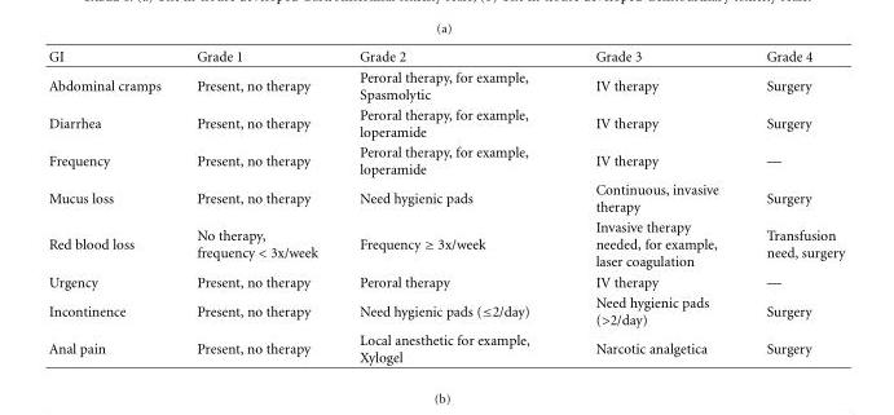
<table><thead><tr><td>GI</td><td>Grade 1</td><td>Grade 2</td><td>Grade 3</td><td>Grade 4</td></tr></thead><tbody><tr><td>Abdominal cramps</td><td>Present, no therapy</td><td>Peroral therapy, for example, Spasmolytic</td><td>IV therapy</td><td>Surgery</td></tr><tr><td>Diarrhea</td><td>Present, no therapy</td><td>Peroral therapy, for example, loperamide</td><td>IV therapy</td><td>Surgery</td></tr><tr><td>Frequency</td><td>Present, no therapy</td><td>Peroral therapy, for example, loperamide</td><td>IV therapy</td><td>—</td></tr><tr><td>Mucus loss</td><td>Present, no therapy</td><td>Need hygienic pads</td><td>Continuous, invasive therapy</td><td>Surgery</td></tr><tr><td>Red blood loss</td><td>No therapy, frequency &lt; 3x/week</td><td>Frequency ≥ 3x/week</td><td>Invasive therapy needed, for example, laser coagulation</td><td>Transfusion need, surgery</td></tr><tr><td>Urgency</td><td>Present, no therapy</td><td>Peroral therapy</td><td>IV therapy</td><td>—</td></tr><tr><td>Incontinence</td><td>Present, no therapy</td><td>Need hygienic pads (≤2/day)</td><td>Need hygienic pads (&gt;2/day)</td><td>Surgery</td></tr><tr><td>Anal pain</td><td>Present, no therapy</td><td>Local anesthetic for example, Xylogel</td><td>Narcotic analgetica</td><td>Surgery</td></tr></tbody></table>